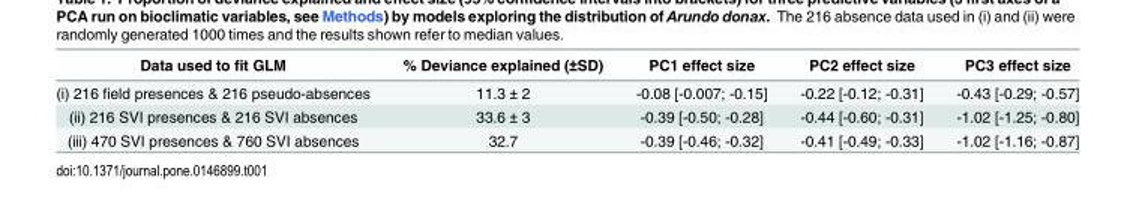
<table><thead><tr><td>Data used to fit GLM</td><td>% Deviance explained (±SD)</td><td>PC1 effect size</td><td>PC2 effect size</td><td>PC3 effect size</td></tr></thead><tbody><tr><td>(i) 216 field presences &amp; 216 pseudo-absences</td><td>11.3 ± 2</td><td>-0.08 [-0.007; -0.15]</td><td>-0.22 [-0.12; -0.31]</td><td>-0.43 [-0.29; -0.57]</td></tr><tr><td>(ii) 216 SVI presences &amp; 216 SVI absences</td><td>33.6 ± 3</td><td>-0.39 [-0.50; -0.28]</td><td>-0.44 [-0.60; -0.31]</td><td>-1.02 [-1.25; -0.80]</td></tr><tr><td>(iii) 470 SVI presences &amp; 760 SVI absences</td><td>32.7</td><td>-0.39 [-0.46; -0.32]</td><td>-0.41 [-0.49; -0.33]</td><td>-1.02 [-1.16; -0.87]</td></tr></tbody></table>